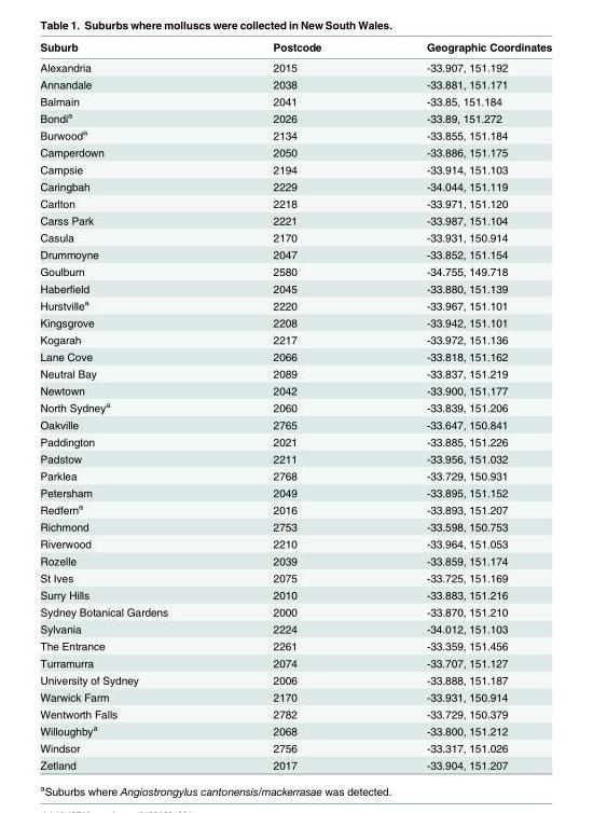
<table><thead><tr><td>Suburb</td><td>Postcode</td><td>Geographic Coordinates</td></tr></thead><tbody><tr><td>Alexandria</td><td>2015</td><td>-33.907, 151.192</td></tr><tr><td>Annandale</td><td>2038</td><td>-33.881, 151.171</td></tr><tr><td>Balmain</td><td>2041</td><td>-33.85, 151.184</td></tr><tr><td>Bondi<sup>a</sup></td><td>2026</td><td>-33.89, 151.272</td></tr><tr><td>Burwood<sup>a</sup></td><td>2134</td><td>-33.855, 151.184</td></tr><tr><td>Camperdown</td><td>2050</td><td>-33.886, 151.175</td></tr><tr><td>Campsie</td><td>2194</td><td>-33.914, 151.103</td></tr><tr><td>Caringbah</td><td>2229</td><td>-34.044, 151.119</td></tr><tr><td>Carlton</td><td>2218</td><td>-33.971, 151.120</td></tr><tr><td>Carss Park</td><td>2221</td><td>-33.987, 151.104</td></tr><tr><td>Casula</td><td>2170</td><td>-33.931, 150.914</td></tr><tr><td>Drummoyne</td><td>2047</td><td>-33.852, 151.154</td></tr><tr><td>Goulburn</td><td>2580</td><td>-34.755, 149.718</td></tr><tr><td>Haberfield</td><td>2045</td><td>-33.880, 151.139</td></tr><tr><td>Hurstville<sup>a</sup></td><td>2220</td><td>-33.967, 151.101</td></tr><tr><td>Kingsgrove</td><td>2208</td><td>-33.942, 151.101</td></tr><tr><td>Kogarah</td><td>2217</td><td>-33.972, 151.136</td></tr><tr><td>Lane Cove</td><td>2066</td><td>-33.818, 151.162</td></tr><tr><td>Neutral Bay</td><td>2089</td><td>-33.837, 151.219</td></tr><tr><td>Newtown</td><td>2042</td><td>-33.900, 151.177</td></tr><tr><td>North Sydney<sup>a</sup></td><td>2060</td><td>-33.839, 151.206</td></tr><tr><td>Oakville</td><td>2765</td><td>-33.647, 150.841</td></tr><tr><td>Paddington</td><td>2021</td><td>-33.885, 151.226</td></tr><tr><td>Padstow</td><td>2211</td><td>-33.956, 151.032</td></tr><tr><td>Parklea</td><td>2768</td><td>-33.729, 150.931</td></tr><tr><td>Petersham</td><td>2049</td><td>-33.895, 151.152</td></tr><tr><td>Redfern<sup>a</sup></td><td>2016</td><td>-33.893, 151.207</td></tr><tr><td>Richmond</td><td>2753</td><td>-33.598, 150.753</td></tr><tr><td>Riverwood</td><td>2210</td><td>-33.964, 151.053</td></tr><tr><td>Rozelle</td><td>2039</td><td>-33.859, 151.174</td></tr><tr><td>St Ives</td><td>2075</td><td>-33.725, 151.169</td></tr><tr><td>Surry Hills</td><td>2010</td><td>-33.883, 151.216</td></tr><tr><td>Sydney Botanical Gardens</td><td>2000</td><td>-33.870, 151.210</td></tr><tr><td>Sylvania</td><td>2224</td><td>-34.012, 151.103</td></tr><tr><td>The Entrance</td><td>2261</td><td>-33.359, 151.456</td></tr><tr><td>Turramurra</td><td>2074</td><td>-33.707, 151.127</td></tr><tr><td>University of Sydney</td><td>2006</td><td>-33.888, 151.187</td></tr><tr><td>Warwick Farm</td><td>2170</td><td>-33.931, 150.914</td></tr><tr><td>Wentworth Falls</td><td>2782</td><td>-33.729, 150.379</td></tr><tr><td>Willoughby<sup>a</sup></td><td>2068</td><td>-33.800, 151.212</td></tr><tr><td>Windsor</td><td>2756</td><td>-33.317, 151.026</td></tr><tr><td>Zetland</td><td>2017</td><td>-33.904, 151.207</td></tr></tbody></table>